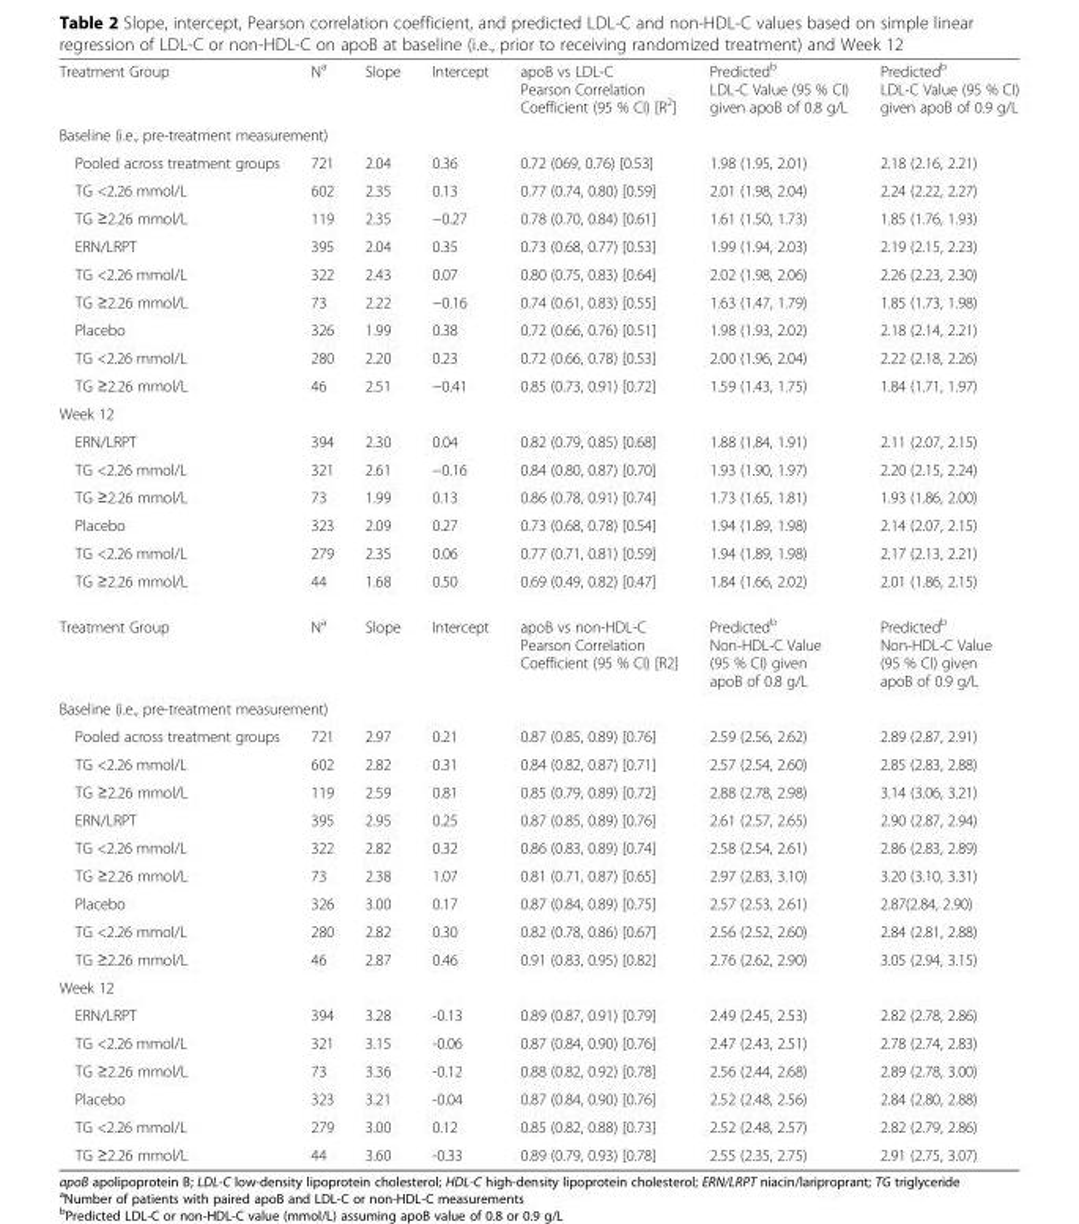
<table><tbody><tr><td>Treatment Group</td><td>N<sup>a</sup></td><td>Slope</td><td>Intercept</td><td>apoB vs LDL-C Pearson Correlation Coefficient (95 % CI) [R<sup>2</sup>]</td><td>Predicted<sup>b</sup> LDL-C Value (95 % CI) given apoB of 0.8 g/L</td><td>Predicted<sup>b</sup> LDL-C Value (95 % CI) given apoB of 0.9 g/L</td></tr><tr><td colspan="7">Baseline (i.e., pre-treatment measurement)</td></tr><tr><td>Pooled across treatment groups</td><td>721</td><td>2.04</td><td>0.36</td><td>0.72 (069, 0.76) [0.53]</td><td>1.98 (1.95, 2.01)</td><td>2.18 (2.16, 2.21)</td></tr><tr><td>TG &lt;2.26 mmol/L</td><td>602</td><td>2.35</td><td>0.13</td><td>0.77 (0.74, 0.80) [0.59]</td><td>2.01 (1.98, 2.04)</td><td>2.24 (2.22, 2.27)</td></tr><tr><td>TG ≥2.26 mmol/L</td><td>119</td><td>2.35</td><td>−0.27</td><td>0.78 (0.70, 0.84) [0.61]</td><td>1.61 (1.50, 1.73)</td><td>1.85 (1.76, 1.93)</td></tr><tr><td>ERN/LRPT</td><td>395</td><td>2.04</td><td>0.35</td><td>0.73 (0.68, 0.77) [0.53]</td><td>1.99 (1.94, 2.03)</td><td>2.19 (2.15, 2.23)</td></tr><tr><td>TG &lt;2.26 mmol/L</td><td>322</td><td>2.43</td><td>0.07</td><td>0.80 (0.75, 0.83) [0.64]</td><td>2.02 (1.98, 2.06)</td><td>2.26 (2.23, 2.30)</td></tr><tr><td>TG ≥2.26 mmol/L</td><td>73</td><td>2.22</td><td>−0.16</td><td>0.74 (0.61, 0.83) [0.55]</td><td>1.63 (1.47, 1.79)</td><td>1.85 (1.73, 1.98)</td></tr><tr><td>Placebo</td><td>326</td><td>1.99</td><td>0.38</td><td>0.72 (0.66, 0.76) [0.51]</td><td>1.98 (1.93, 2.02)</td><td>2.18 (2.14, 2.21)</td></tr><tr><td>TG &lt;2.26 mmol/L</td><td>280</td><td>2.20</td><td>0.23</td><td>0.72 (0.66, 0.78) [0.53]</td><td>2.00 (1.96, 2.04)</td><td>2.22 (2.18, 2.26)</td></tr><tr><td>TG ≥2.26 mmol/L</td><td>46</td><td>2.51</td><td>−0.41</td><td>0.85 (0.73, 0.91) [0.72]</td><td>1.59 (1.43, 1.75)</td><td>1.84 (1.71, 1.97)</td></tr><tr><td colspan="7">Week 12</td></tr><tr><td>ERN/LRPT</td><td>394</td><td>2.30</td><td>0.04</td><td>0.82 (0.79, 0.85) [0.68]</td><td>1.88 (1.84, 1.91)</td><td>2.11 (2.07, 2.15)</td></tr><tr><td>TG &lt;2.26 mmol/L</td><td>321</td><td>2.61</td><td>−0.16</td><td>0.84 (0.80, 0.87) [0.70]</td><td>1.93 (1.90, 1.97)</td><td>2.20 (2.15, 2.24)</td></tr><tr><td>TG ≥2.26 mmol/L</td><td>73</td><td>1.99</td><td>0.13</td><td>0.86 (0.78, 0.91) [0.74]</td><td>1.73 (1.65, 1.81)</td><td>1.93 (1.86, 2.00)</td></tr><tr><td>Placebo</td><td>323</td><td>2.09</td><td>0.27</td><td>0.73 (0.68, 0.78) [0.54]</td><td>1.94 (1.89, 1.98)</td><td>2.14 (2.07, 2.15)</td></tr><tr><td>TG &lt;2.26 mmol/L</td><td>279</td><td>2.35</td><td>0.06</td><td>0.77 (0.71, 0.81) [0.59]</td><td>1.94 (1.89, 1.98)</td><td>2.17 (2.13, 2.21)</td></tr><tr><td>TG ≥2.26 mmol/L</td><td>44</td><td>1.68</td><td>0.50</td><td>0.69 (0.49, 0.82) [0.47]</td><td>1.84 (1.66, 2.02)</td><td>2.01 (1.86, 2.15)</td></tr><tr><td>Treatment Group</td><td>N<sup>a</sup></td><td>Slope</td><td>Intercept</td><td>apoB vs non-HDL-C Pearson Correlation Coefficient (95 % CI) [R2]</td><td>Predicted<sup>b</sup> Non-HDL-C Value (95 % CI) given apoB of 0.8 g/L</td><td>Predicted<sup>b</sup> Non-HDL-C Value (95 % CI) given apoB of 0.9 g/L</td></tr><tr><td colspan="7">Baseline (i.e., pre-treatment measurement)</td></tr><tr><td>Pooled across treatment groups</td><td>721</td><td>2.97</td><td>0.21</td><td>0.87 (0.85, 0.89) [0.76]</td><td>2.59 (2.56, 2.62)</td><td>2.89 (2.87, 2.91)</td></tr><tr><td>TG &lt;2.26 mmol/L</td><td>602</td><td>2.82</td><td>0.31</td><td>0.84 (0.82, 0.87) [0.71]</td><td>2.57 (2.54, 2.60)</td><td>2.85 (2.83, 2.88)</td></tr><tr><td>TG ≥2.26 mmol/L</td><td>119</td><td>2.59</td><td>0.81</td><td>0.85 (0.79, 0.89) [0.72]</td><td>2.88 (2.78, 2.98)</td><td>3.14 (3.06, 3.21)</td></tr><tr><td>ERN/LRPT</td><td>395</td><td>2.95</td><td>0.25</td><td>0.87 (0.85, 0.89) [0.76]</td><td>2.61 (2.57, 2.65)</td><td>2.90 (2.87, 2.94)</td></tr><tr><td>TG &lt;2.26 mmol/L</td><td>322</td><td>2.82</td><td>0.32</td><td>0.86 (0.83, 0.89) [0.74]</td><td>2.58 (2.54, 2.61)</td><td>2.86 (2.83, 2.89)</td></tr><tr><td>TG ≥2.26 mmol/L</td><td>73</td><td>2.38</td><td>1.07</td><td>0.81 (0.71, 0.87) [0.65]</td><td>2.97 (2.83, 3.10)</td><td>3.20 (3.10, 3.31)</td></tr><tr><td>Placebo</td><td>326</td><td>3.00</td><td>0.17</td><td>0.87 (0.84, 0.89) [0.75]</td><td>2.57 (2.53, 2.61)</td><td>2.87(2.84, 2.90)</td></tr><tr><td>TG &lt;2.26 mmol/L</td><td>280</td><td>2.82</td><td>0.30</td><td>0.82 (0.78, 0.86) [0.67]</td><td>2.56 (2.52, 2.60)</td><td>2.84 (2.81, 2.88)</td></tr><tr><td>TG ≥2.26 mmol/L</td><td>46</td><td>2.87</td><td>0.46</td><td>0.91 (0.83, 0.95) [0.82]</td><td>2.76 (2.62, 2.90)</td><td>3.05 (2.94, 3.15)</td></tr><tr><td colspan="7">Week 12</td></tr><tr><td>ERN/LRPT</td><td>394</td><td>3.28</td><td>-0.13</td><td>0.89 (0.87, 0.91) [0.79]</td><td>2.49 (2.45, 2.53)</td><td>2.82 (2.78, 2.86)</td></tr><tr><td>TG &lt;2.26 mmol/L</td><td>321</td><td>3.15</td><td>-0.06</td><td>0.87 (0.84, 0.90) [0.76]</td><td>2.47 (2.43, 2.51)</td><td>2.78 (2.74, 2.83)</td></tr><tr><td>TG ≥2.26 mmol/L</td><td>73</td><td>3.36</td><td>-0.12</td><td>0.88 (0.82, 0.92) [0.78]</td><td>2.56 (2.44, 2.68)</td><td>2.89 (2.78, 3.00)</td></tr><tr><td>Placebo</td><td>323</td><td>3.21</td><td>-0.04</td><td>0.87 (0.84, 0.90) [0.76]</td><td>2.52 (2.48, 2.56)</td><td>2.84 (2.80, 2.88)</td></tr><tr><td>TG &lt;2.26 mmol/L</td><td>279</td><td>3.00</td><td>0.12</td><td>0.85 (0.82, 0.88) [0.73]</td><td>2.52 (2.48, 2.57)</td><td>2.82 (2.79, 2.86)</td></tr><tr><td>TG ≥2.26 mmol/L</td><td>44</td><td>3.60</td><td>-0.33</td><td>0.89 (0.79, 0.93) [0.78]</td><td>2.55 (2.35, 2.75)</td><td>2.91 (2.75, 3.07)</td></tr></tbody></table>